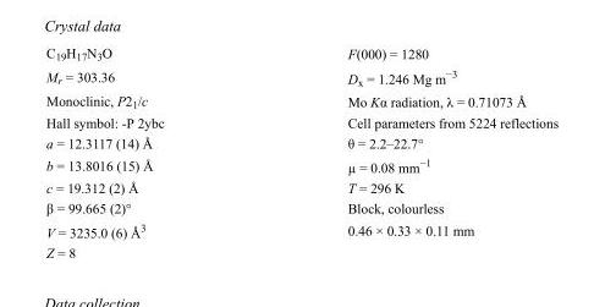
<table><tbody><tr><td>C<sub>19</sub>H<sub>17</sub>N<sub>3</sub>O</td><td>F(000) = 1280</td></tr><tr><td>M<sub>r</sub> = 303.36</td><td>D<sub>x</sub> = 1.246 Mg m<sup>−3</sup></td></tr><tr><td>Monoclinic, P2<sub>1</sub>/c</td><td>Mo Kα radiation, λ = 0.71073 Å</td></tr><tr><td>Hall symbol: -P 2ybc</td><td>Cell parameters from 5224 reflections</td></tr><tr><td>a = 12.3117 (14) Å</td><td>θ = 2.2–22.7°</td></tr><tr><td>b = 13.8016 (15) Å</td><td>µ = 0.08 mm<sup>−1</sup></td></tr><tr><td>c = 19.312 (2) Å</td><td>T = 296 K</td></tr><tr><td>β = 99.665 (2)°</td><td>Block, colourless</td></tr><tr><td>V = 3235.0 (6) Å<sup>3</sup></td><td>0.46 × 0.33 × 0.11 mm</td></tr><tr><td>Z = 8</td><td></td></tr></tbody></table>